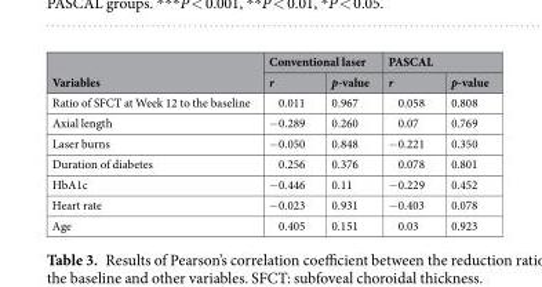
<table><thead><tr><td rowspan="2">Variables</td><td colspan="2">Conventional laser</td><td colspan="2">PASCAL</td></tr><tr><td>r</td><td>p-value</td><td>r</td><td>p-value</td></tr></thead><tbody><tr><td>Ratio of SFCT at Week 12 to the baseline</td><td>0.011</td><td>0.967</td><td>0.058</td><td>0.808</td></tr><tr><td>Axial length</td><td>−0.289</td><td>0.260</td><td>0.07</td><td>0.769</td></tr><tr><td>Laser burns</td><td>−0.050</td><td>0.848</td><td>−0.221</td><td>0.350</td></tr><tr><td>Duration of diabetes</td><td>0.256</td><td>0.376</td><td>0.078</td><td>0.801</td></tr><tr><td>HbA1c</td><td>−0.446</td><td>0.11</td><td>−0.229</td><td>0.452</td></tr><tr><td>Heart rate</td><td>−0.023</td><td>0.931</td><td>−0.403</td><td>0.078</td></tr><tr><td>Age</td><td>0.405</td><td>0.151</td><td>0.03</td><td>0.923</td></tr></tbody></table>